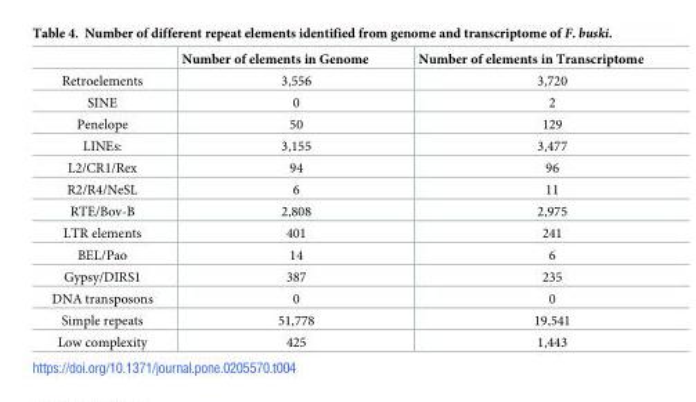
<table><thead><tr><td></td><td>Number of elements in Genome</td><td>Number of elements in Transcriptome</td></tr></thead><tbody><tr><td>Retroelements</td><td>3,556</td><td>3,720</td></tr><tr><td>SINE</td><td>0</td><td>2</td></tr><tr><td>Penelope</td><td>50</td><td>129</td></tr><tr><td>LINEs:</td><td>3,155</td><td>3,477</td></tr><tr><td>L2/CR1/Rex</td><td>94</td><td>96</td></tr><tr><td>R2/R4/NeSL</td><td>6</td><td>11</td></tr><tr><td>RTE/Bov-B</td><td>2,808</td><td>2,975</td></tr><tr><td>LTR elements</td><td>401</td><td>241</td></tr><tr><td>BEL/Pao</td><td>14</td><td>6</td></tr><tr><td>Gypsy/DIRS1</td><td>387</td><td>235</td></tr><tr><td>DNA transposons</td><td>0</td><td>0</td></tr><tr><td>Simple repeats</td><td>51,778</td><td>19,541</td></tr><tr><td>Low complexity</td><td>425</td><td>1,443</td></tr></tbody></table>